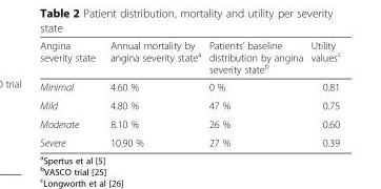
<table><thead><tr><td>Angina severity state</td><td>Annual mortality by angina severity state<sup>a</sup></td><td>Patients’ baseline distribution by angina severity state<sup>b</sup></td><td>Utility values<sup>c</sup></td></tr></thead><tbody><tr><td>Minimal</td><td>4.60 %</td><td>0 %</td><td>0.81</td></tr><tr><td>Mild</td><td>4.80 %</td><td>47 %</td><td>0.75</td></tr><tr><td>Moderate</td><td>8.10 %</td><td>26 %</td><td>0.60</td></tr><tr><td>Severe</td><td>10.90 %</td><td>27 %</td><td>0.39</td></tr></tbody></table>